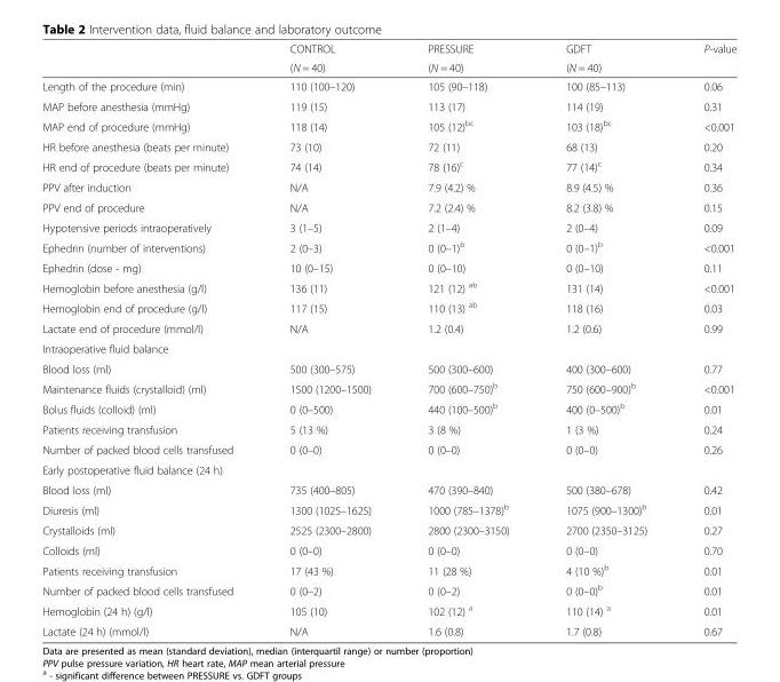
<table><thead><tr><td rowspan="2"></td><td rowspan="2">CONTROL (N = 40)</td><td rowspan="2">PRESSURE (N = 40)</td><td rowspan="2">GDFT (N = 40)</td><td rowspan="2">P-value</td></tr><tr></tr></thead><tbody><tr><td>Length of the procedure (min)</td><td>110 (100–120)</td><td>105 (90–118)</td><td>100 (85–113)</td><td>0.06</td></tr><tr><td>MAP before anesthesia (mmHg)</td><td>119 (15)</td><td>113 (17)</td><td>114 (19)</td><td>0.31</td></tr><tr><td>MAP end of procedure (mmHg)</td><td>118 (14)</td><td>105 (12)<sup>bc</sup></td><td>103 (18)<sup>bc</sup></td><td>&lt;0.001</td></tr><tr><td>HR before anesthesia (beats per minute)</td><td>73 (10)</td><td>72 (11)</td><td>68 (13)</td><td>0.20</td></tr><tr><td>HR end of procedure (beats per minute)</td><td>74 (14)</td><td>78 (16)<sup>c</sup></td><td>77 (14)<sup>c</sup></td><td>0.34</td></tr><tr><td>PPV after induction</td><td>N/A</td><td>7.9 (4.2) %</td><td>8.9 (4.5) %</td><td>0.36</td></tr><tr><td>PPV end of procedure</td><td>N/A</td><td>7.2 (2.4) %</td><td>8.2 (3.8) %</td><td>0.15</td></tr><tr><td>Hypotensive periods intraoperatively</td><td>3 (1–5)</td><td>2 (1–4)</td><td>2 (0–4)</td><td>0.09</td></tr><tr><td>Ephedrin (number of interventions)</td><td>2 (0–3)</td><td>0 (0–1)<sup>b</sup></td><td>0 (0–1)<sup>b</sup></td><td>&lt;0.001</td></tr><tr><td>Ephedrin (dose - mg)</td><td>10 (0–15)</td><td>0 (0–10)</td><td>0 (0–10)</td><td>0.11</td></tr><tr><td>Hemoglobin before anesthesia (g/l)</td><td>136 (11)</td><td>121 (12) <sup>ab</sup></td><td>131 (14)</td><td>&lt;0.001</td></tr><tr><td>Hemoglobin end of procedure (g/l)</td><td>117 (15)</td><td>110 (13) <sup>ab</sup></td><td>118 (16)</td><td>0.03</td></tr><tr><td>Lactate end of procedure (mmol/l)</td><td>N/A</td><td>1.2 (0.4)</td><td>1.2 (0.6)</td><td>0.99</td></tr><tr><td colspan="5">Intraoperative fluid balance</td></tr><tr><td>Blood loss (ml)</td><td>500 (300–575)</td><td>500 (300–600)</td><td>400 (300–600)</td><td>0.77</td></tr><tr><td>Maintenance fluids (crystalloid) (ml)</td><td>1500 (1200–1500)</td><td>700 (600–750)<sup>b</sup></td><td>750 (600–900)<sup>b</sup></td><td>&lt;0.001</td></tr><tr><td>Bolus fluids (colloid) (ml)</td><td>0 (0–500)</td><td>440 (100–500)<sup>b</sup></td><td>400 (0–500)<sup>b</sup></td><td>0.01</td></tr><tr><td>Patients receiving transfusion</td><td>5 (13 %)</td><td>3 (8 %)</td><td>1 (3 %)</td><td>0.24</td></tr><tr><td>Number of packed blood cells transfused</td><td>0 (0–0)</td><td>0 (0–0)</td><td>0 (0–0)</td><td>0.26</td></tr><tr><td colspan="5">Early postoperative fluid balance (24 h)</td></tr><tr><td>Blood loss (ml)</td><td>735 (400–805)</td><td>470 (390–840)</td><td>500 (380–678)</td><td>0.42</td></tr><tr><td>Diuresis (ml)</td><td>1300 (1025–1625)</td><td>1000 (785–1378)<sup>b</sup></td><td>1075 (900–1300)<sup>b</sup></td><td>0.01</td></tr><tr><td>Crystalloids (ml)</td><td>2525 (2300–2800)</td><td>2800 (2300–3150)</td><td>2700 (2350–3125)</td><td>0.27</td></tr><tr><td>Colloids (ml)</td><td>0 (0–0)</td><td>0 (0–0)</td><td>0 (0–0)</td><td>0.70</td></tr><tr><td>Patients receiving transfusion</td><td>17 (43 %)</td><td>11 (28 %)</td><td>4 (10 %)<sup>b</sup></td><td>0.01</td></tr><tr><td>Number of packed blood cells transfused</td><td>0 (0–2)</td><td>0 (0–2)</td><td>0 (0–0)<sup>b</sup></td><td>0.01</td></tr><tr><td>Hemoglobin (24 h) (g/l)</td><td>105 (10)</td><td>102 (12) <sup>a</sup></td><td>110 (14) <sup>a</sup></td><td>0.01</td></tr><tr><td>Lactate (24 h) (mmol/l)</td><td>N/A</td><td>1.6 (0.8)</td><td>1.7 (0.8)</td><td>0.67</td></tr></tbody></table>